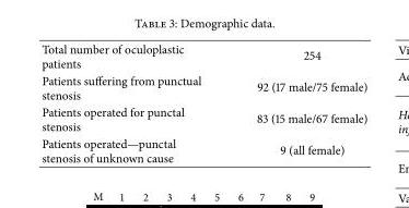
<table><tbody><tr><td>Total number of oculoplastic patients</td><td>254</td></tr><tr><td>Patients suffering from punctual stenosis</td><td>92 (17 male/75 female)</td></tr><tr><td>Patients operated for punctal stenosis</td><td>83 (15 male/67 female)</td></tr><tr><td>Patients operated—punctal stenosis of unknown cause</td><td>9 (all female)</td></tr></tbody></table>